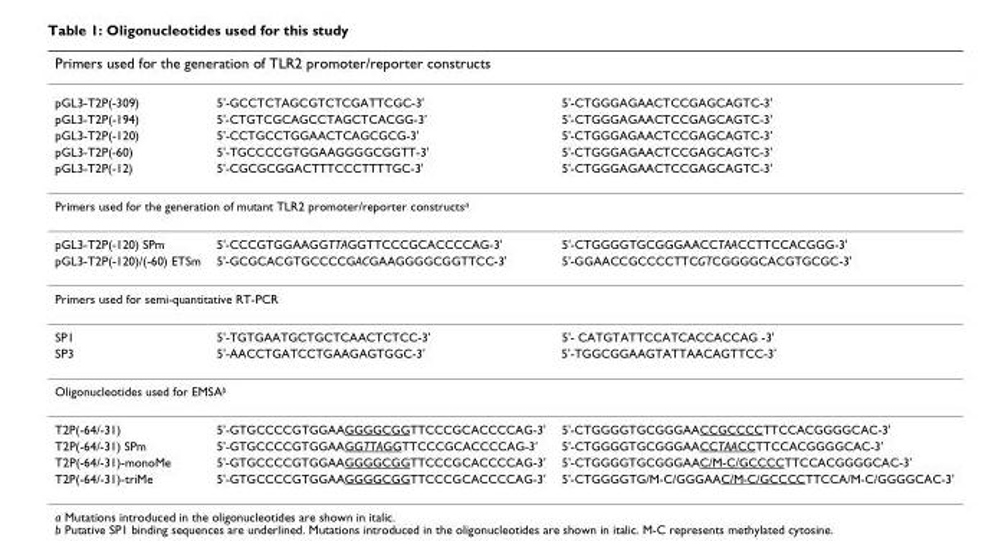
<table><thead><tr><td colspan="3">Primers used for the generation of TLR2 promoter/reporter constructs</td></tr><tr><td>pGL3-T2P(-309)</td><td>5&#x27;-GCCTCTAGCGTCTCGATTCGC-3&#x27;</td><td>5&#x27;-CTGGGAGAACTCCGAGCAGTC-3&#x27;</td></tr></thead><tbody><tr><td>pGL3-T2P(-194)</td><td>5&#x27;-CTGTCGCAGCCTAGCTCACGG-3&#x27;</td><td>5&#x27;-CTGGGAGAACTCCGAGCAGTC-3&#x27;</td></tr><tr><td>pGL3-T2P(-120)</td><td>5&#x27;-CCTGCCTGGAACTCAGCGCG-3&#x27;</td><td>5&#x27;-CTGGGAGAACTCCGAGCAGTC-3&#x27;</td></tr><tr><td>pGL3-T2P(-60)</td><td>5&#x27;-TGCCCCGTGGAAGGGGCGGTT-3&#x27;</td><td>5&#x27;-CTGGGAGAACTCCGAGCAGTC-3&#x27;</td></tr><tr><td>pGL3-T2P(-12)</td><td>5&#x27;-CGCGCGGACTTTCCCTTTTGC-3&#x27;</td><td>5&#x27;-CTGGGAGAACTCCGAGCAGTC-3&#x27;</td></tr><tr><td colspan="3">Primers used for the generation of mutant TLR2 promoter/reporter constructs<sup>a</sup></td></tr><tr><td>pGL3-T2P(-120) SPm</td><td>5&#x27;-CCCGTGGAAGGTTAGGTTCCCGCACCCCAG-3&#x27;</td><td>5&#x27;-CTGGGGTGCGGGAACCTAACCTTCCACGGG-3&#x27;</td></tr><tr><td>pGL3-T2P(-120)/(-60) ETSm</td><td>5&#x27;-GCGCACGTGCCCCGACGAAGGGGCGGTTCC-3&#x27;</td><td>5&#x27;-GGAACCGCCCCTTCGTCGGGGCACGTGCGC-3&#x27;</td></tr><tr><td colspan="3">Primers used for semi-quantitative RT-PCR</td></tr><tr><td>SP1</td><td>5&#x27;-TGTGAATGCTGCTCAACTCTCC-3&#x27;</td><td>5&#x27;- CATGTATTCCATCACCACCAG -3&#x27;</td></tr><tr><td>SP3</td><td>5&#x27;-AACCTGATCCTGAAGAGTGGC-3&#x27;</td><td>5&#x27;-TGGCGGAAGTATTAACAGTTCC-3&#x27;</td></tr><tr><td colspan="3">Oligonucleotides used for EMSA<sup>b</sup></td></tr><tr><td>T2P(-64/-31)</td><td>5&#x27;-GTGCCCCGTGGAAGGGGCGGTTCCCGCACCCCAG-3&#x27;</td><td>5&#x27;-CTGGGGTGCGGGAACCGCCCCTTCCACGGGGCAC-3&#x27;</td></tr><tr><td>T2P(-64/-31) SPm</td><td>5&#x27;-GTGCCCCGTGGAAGGTTAGGTTCCCGCACCCCAG-3&#x27;</td><td>5&#x27;-CTGGGGTGCGGGAACCTAACCTTCCACGGGGCAC-3&#x27;</td></tr><tr><td>T2P(-64/-31)-monoMe</td><td>5&#x27;-GTGCCCCGTGGAAGGGGCGGTTCCCGCACCCCAG-3&#x27;</td><td>5&#x27;-CTGGGGTGCGGGAAC/M-C/GCCCCTTCCACGGGGCAC-3&#x27;</td></tr><tr><td>T2P(-64/-31)-triMe</td><td>5&#x27;-GTGCCCCGTGGAAGGGGCGGTTCCCGCACCCCAG-3&#x27;</td><td>5&#x27;-CTGGGGTG/M-C/GGGAAC/M-C/GCCCCTTCCA/M-C/GGGGCAC-3&#x27;</td></tr></tbody></table>